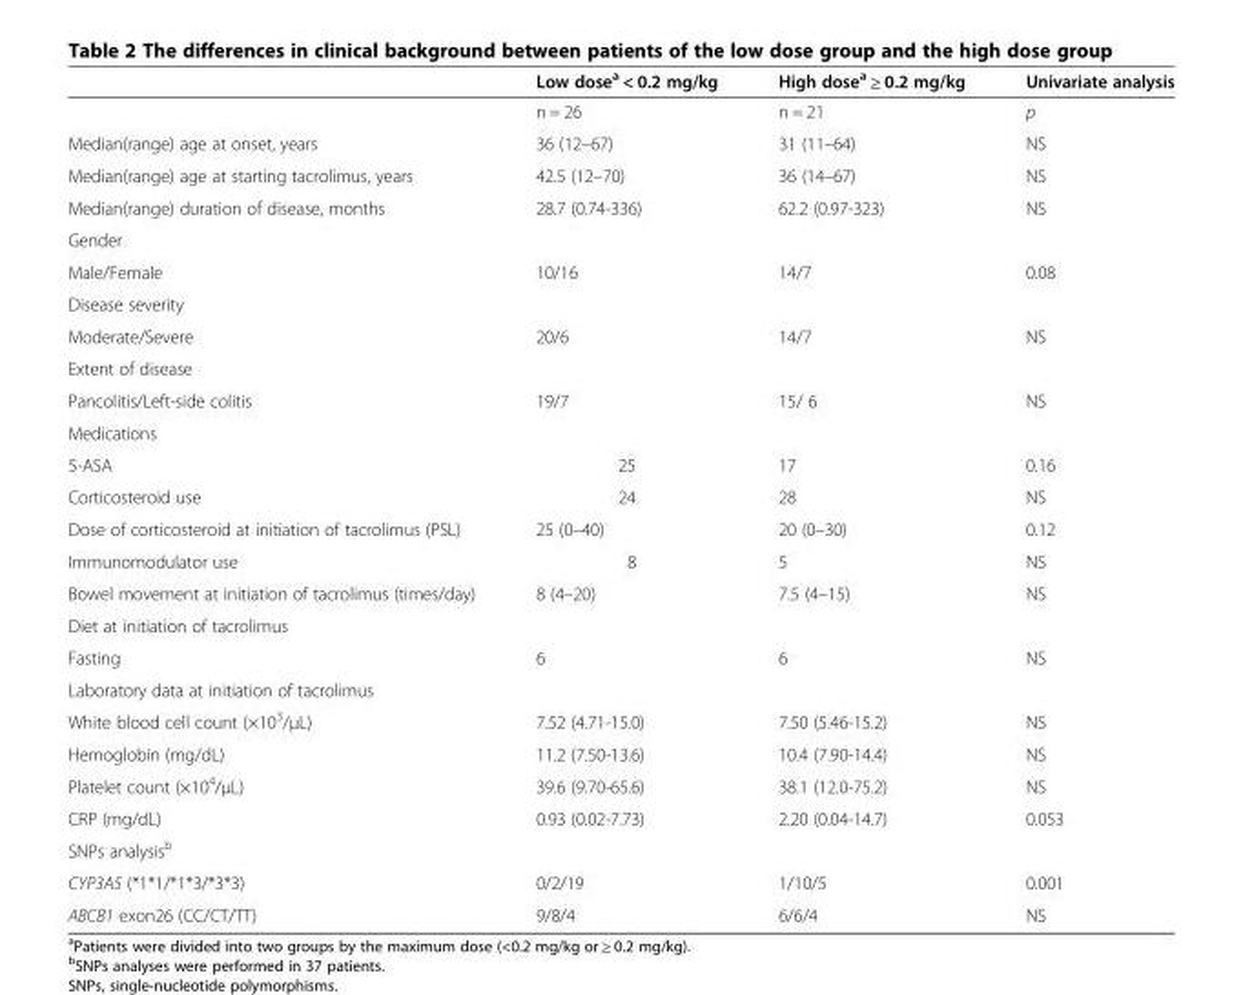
<table><thead><tr><td></td><td>Low dose<sup>a</sup> &lt; 0.2 mg/kg</td><td>High dose<sup>a</sup> ≥ 0.2 mg/kg</td><td>Univariate analysis</td></tr></thead><tbody><tr><td></td><td>n = 26</td><td>n = 21</td><td>p</td></tr><tr><td>Median(range) age at onset, years</td><td>36 (12–67)</td><td>31 (11–64)</td><td>NS</td></tr><tr><td>Median(range) age at starting tacrolimus, years</td><td>42.5 (12–70)</td><td>36 (14–67)</td><td>NS</td></tr><tr><td>Median(range) duration of disease, months</td><td>28.7 (0.74-336)</td><td>62.2 (0.97-323)</td><td>NS</td></tr><tr><td colspan="4">Gender</td></tr><tr><td>Male/Female</td><td>10/16</td><td>14/7</td><td>0.08</td></tr><tr><td colspan="4">Disease severity</td></tr><tr><td>Moderate/Severe</td><td>20/6</td><td>14/7</td><td>NS</td></tr><tr><td colspan="4">Extent of disease</td></tr><tr><td>Pancolitis/Left-side colitis</td><td>19/7</td><td>15/ 6</td><td>NS</td></tr><tr><td colspan="4">Medications</td></tr><tr><td>5-ASA</td><td>25</td><td>17</td><td>0.16</td></tr><tr><td>Corticosteroid use</td><td>24</td><td>28</td><td>NS</td></tr><tr><td>Dose of corticosteroid at initiation of tacrolimus (PSL)</td><td>25 (0–40)</td><td>20 (0–30)</td><td>0.12</td></tr><tr><td>Immunomodulator use</td><td>8</td><td>5</td><td>NS</td></tr><tr><td>Bowel movement at initiation of tacrolimus (times/day)</td><td>8 (4–20)</td><td>7.5 (4–15)</td><td>NS</td></tr><tr><td colspan="4">Diet at initiation of tacrolimus</td></tr><tr><td>Fasting</td><td>6</td><td>6</td><td>NS</td></tr><tr><td colspan="4">Laboratory data at initiation of tacrolimus</td></tr><tr><td>White blood cell count (×10<sup>3</sup>/μL)</td><td>7.52 (4.71-15.0)</td><td>7.50 (5.46-15.2)</td><td>NS</td></tr><tr><td>Hemoglobin (mg/dL)</td><td>11.2 (7.50-13.6)</td><td>10.4 (7.90-14.4)</td><td>NS</td></tr><tr><td>Platelet count (×10<sup>4</sup>/μL)</td><td>39.6 (9.70-65.6)</td><td>38.1 (12.0-75.2)</td><td>NS</td></tr><tr><td>CRP (mg/dL)</td><td>0.93 (0.02-7.73)</td><td>2.20 (0.04-14.7)</td><td>0.053</td></tr><tr><td colspan="4">SNPs analysis<sup>b</sup></td></tr><tr><td>CYP3A5 (*1*1/*1*3/*3*3)</td><td>0/2/19</td><td>1/10/5</td><td>0.001</td></tr><tr><td>ABCB1 exon26 (CC/CT/TT)</td><td>9/8/4</td><td>6/6/4</td><td>NS</td></tr></tbody></table>